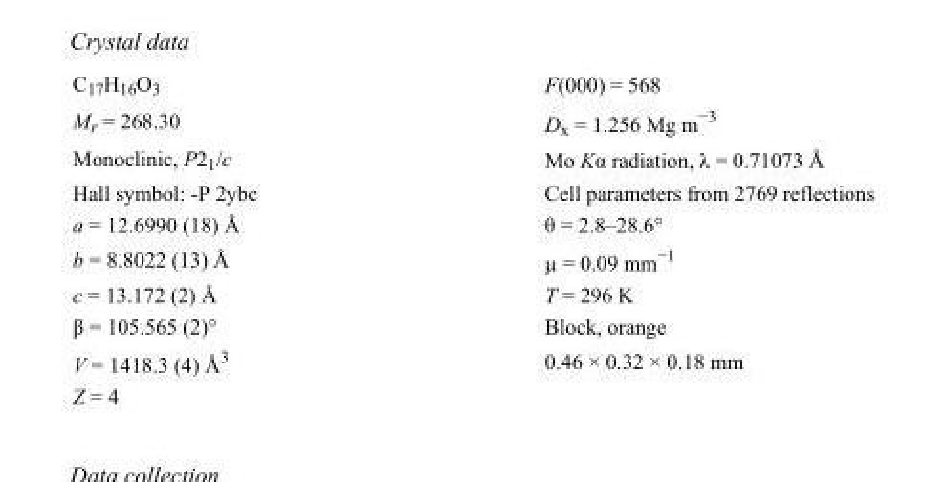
<table><tbody><tr><td>C<sub>17</sub>H<sub>16</sub>O<sub>3</sub></td><td>F(000) = 568</td></tr><tr><td>M<sub>r</sub> = 268.30</td><td>D<sub>x</sub> = 1.256 Mg m<sup>−3</sup></td></tr><tr><td>Monoclinic, P2<sub>1</sub>/c</td><td>Mo Kα radiation, λ = 0.71073 Å</td></tr><tr><td>Hall symbol: -P 2ybc</td><td>Cell parameters from 2769 reflections</td></tr><tr><td>a = 12.6990 (18) Å</td><td>θ = 2.8–28.6°</td></tr><tr><td>b = 8.8022 (13) Å</td><td>µ = 0.09 mm<sup>−1</sup></td></tr><tr><td>c = 13.172 (2) Å</td><td>T = 296 K</td></tr><tr><td>β = 105.565 (2)°</td><td>Block, orange</td></tr><tr><td>V = 1418.3 (4) Å<sup>3</sup></td><td>0.46 × 0.32 × 0.18 mm</td></tr><tr><td>Z = 4</td><td></td></tr></tbody></table>